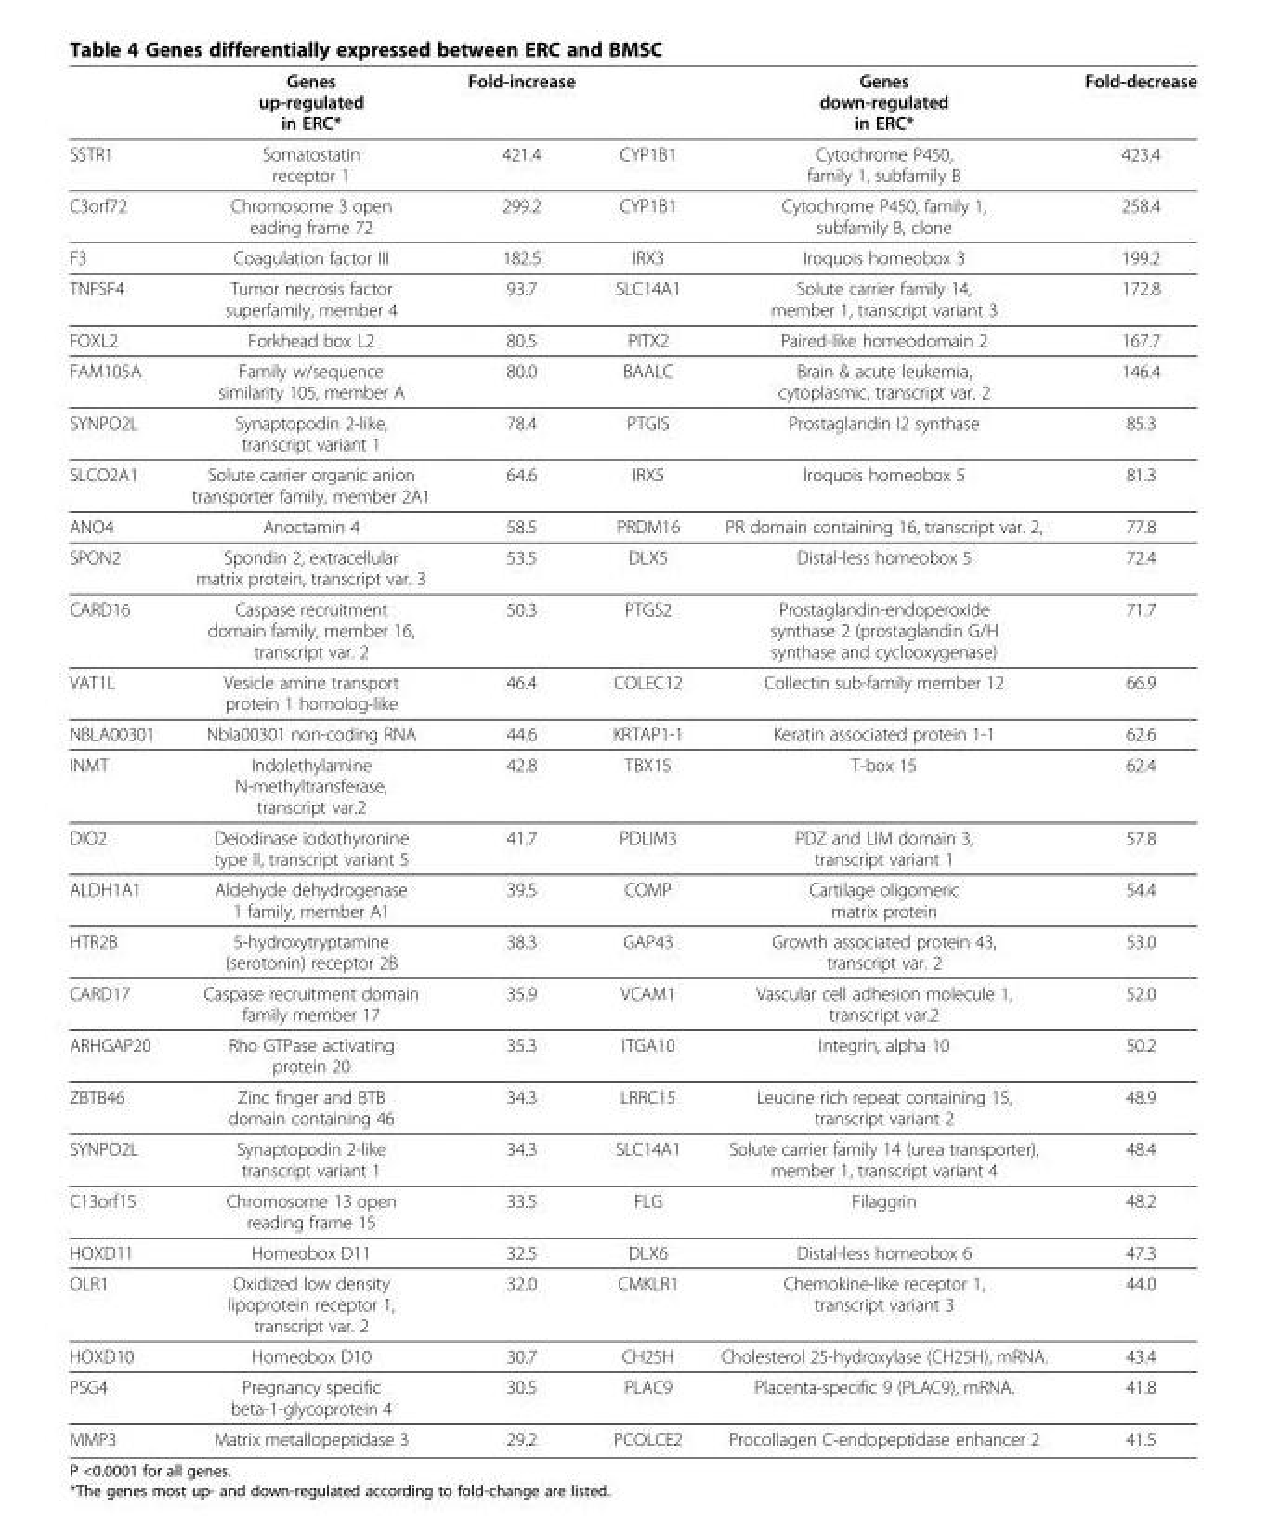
<table><thead><tr><td></td><td>Genes up-regulated in ERC*</td><td>Fold-increase</td><td></td><td>Genes down-regulated in ERC*</td><td>Fold-decrease</td></tr></thead><tbody><tr><td>SSTR1</td><td>Somatostatin receptor 1</td><td>421.4</td><td>CYP1B1</td><td>Cytochrome P450, family 1, subfamily B</td><td>423.4</td></tr><tr><td>C3orf72</td><td>Chromosome 3 open eading frame 72</td><td>299.2</td><td>CYP1B1</td><td>Cytochrome P450, family 1, subfamily B, clone</td><td>258.4</td></tr><tr><td>F3</td><td>Coagulation factor III</td><td>182.5</td><td>IRX3</td><td>Iroquois homeobox 3</td><td>199.2</td></tr><tr><td>TNFSF4</td><td>Tumor necrosis factor superfamily, member 4</td><td>93.7</td><td>SLC14A1</td><td>Solute carrier family 14, member 1, transcript variant 3</td><td>172.8</td></tr><tr><td>FOXL2</td><td>Forkhead box L2</td><td>80.5</td><td>PITX2</td><td>Paired-like homeodomain 2</td><td>167.7</td></tr><tr><td>FAM105A</td><td>Family w/sequence similarity 105, member A</td><td>80.0</td><td>BAALC</td><td>Brain &amp; acute leukemia, cytoplasmic, transcript var. 2</td><td>146.4</td></tr><tr><td>SYNPO2L</td><td>Synaptopodin 2-like, transcript variant 1</td><td>78.4</td><td>PTGIS</td><td>Prostaglandin I2 synthase</td><td>85.3</td></tr><tr><td>SLCO2A1</td><td>Solute carrier organic anion transporter family, member 2A1</td><td>64.6</td><td>IRX5</td><td>Iroquois homeobox 5</td><td>81.3</td></tr><tr><td>ANO4</td><td>Anoctamin 4</td><td>58.5</td><td>PRDM16</td><td>PR domain containing 16, transcript var. 2,</td><td>77.8</td></tr><tr><td>SPON2</td><td>Spondin 2, extracellular matrix protein, transcript var. 3</td><td>53.5</td><td>DLX5</td><td>Distal-less homeobox 5</td><td>72.4</td></tr><tr><td>CARD16</td><td>Caspase recruitment domain family, member 16, transcript var. 2</td><td>50.3</td><td>PTGS2</td><td>Prostaglandin-endoperoxide synthase 2 (prostaglandin G/H synthase and cyclooxygenase)</td><td>71.7</td></tr><tr><td>VAT1L</td><td>Vesicle amine transport protein 1 homolog-like</td><td>46.4</td><td>COLEC12</td><td>Collectin sub-family member 12</td><td>66.9</td></tr><tr><td>NBLA00301</td><td>Nbla00301 non-coding RNA</td><td>44.6</td><td>KRTAP1-1</td><td>Keratin associated protein 1-1</td><td>62.6</td></tr><tr><td>INMT</td><td>Indolethylamine N-methyltransferase, transcript var.2</td><td>42.8</td><td>TBX15</td><td>T-box 15</td><td>62.4</td></tr><tr><td>DIO2</td><td>Deiodinase iodothyronine type II, transcript variant 5</td><td>41.7</td><td>PDLIM3</td><td>PDZ and LIM domain 3, transcript variant 1</td><td>57.8</td></tr><tr><td>ALDH1A1</td><td>Aldehyde dehydrogenase 1 family, member A1</td><td>39.5</td><td>COMP</td><td>Cartilage oligomeric matrix protein</td><td>54.4</td></tr><tr><td>HTR2B</td><td>5-hydroxytryptamine (serotonin) receptor 2B</td><td>38.3</td><td>GAP43</td><td>Growth associated protein 43, transcript var. 2</td><td>53.0</td></tr><tr><td>CARD17</td><td>Caspase recruitment domain family member 17</td><td>35.9</td><td>VCAM1</td><td>Vascular cell adhesion molecule 1, transcript var.2</td><td>52.0</td></tr><tr><td>ARHGAP20</td><td>Rho GTPase activating protein 20</td><td>35.3</td><td>ITGA10</td><td>Integrin, alpha 10</td><td>50.2</td></tr><tr><td>ZBTB46</td><td>Zinc finger and BTB domain containing 46</td><td>34.3</td><td>LRRC15</td><td>Leucine rich repeat containing 15, transcript variant 2</td><td>48.9</td></tr><tr><td>SYNPO2L</td><td>Synaptopodin 2-like transcript variant 1</td><td>34.3</td><td>SLC14A1</td><td>Solute carrier family 14 (urea transporter), member 1, transcript variant 4</td><td>48.4</td></tr><tr><td>C13orf15</td><td>Chromosome 13 open reading frame 15</td><td>33.5</td><td>FLG</td><td>Filaggrin</td><td>48.2</td></tr><tr><td>HOXD11</td><td>Homeobox D11</td><td>32.5</td><td>DLX6</td><td>Distal-less homeobox 6</td><td>47.3</td></tr><tr><td>OLR1</td><td>Oxidized low density lipoprotein receptor 1, transcript var. 2</td><td>32.0</td><td>CMKLR1</td><td>Chemokine-like receptor 1, transcript variant 3</td><td>44.0</td></tr><tr><td>HOXD10</td><td>Homeobox D10</td><td>30.7</td><td>CH25H</td><td>Cholesterol 25-hydroxylase (CH25H), mRNA.</td><td>43.4</td></tr><tr><td>PSG4</td><td>Pregnancy specific beta-1-glycoprotein 4</td><td>30.5</td><td>PLAC9</td><td>Placenta-specific 9 (PLAC9), mRNA.</td><td>41.8</td></tr><tr><td>MMP3</td><td>Matrix metallopeptidase 3</td><td>29.2</td><td>PCOLCE2</td><td>Procollagen C-endopeptidase enhancer 2</td><td>41.5</td></tr></tbody></table>